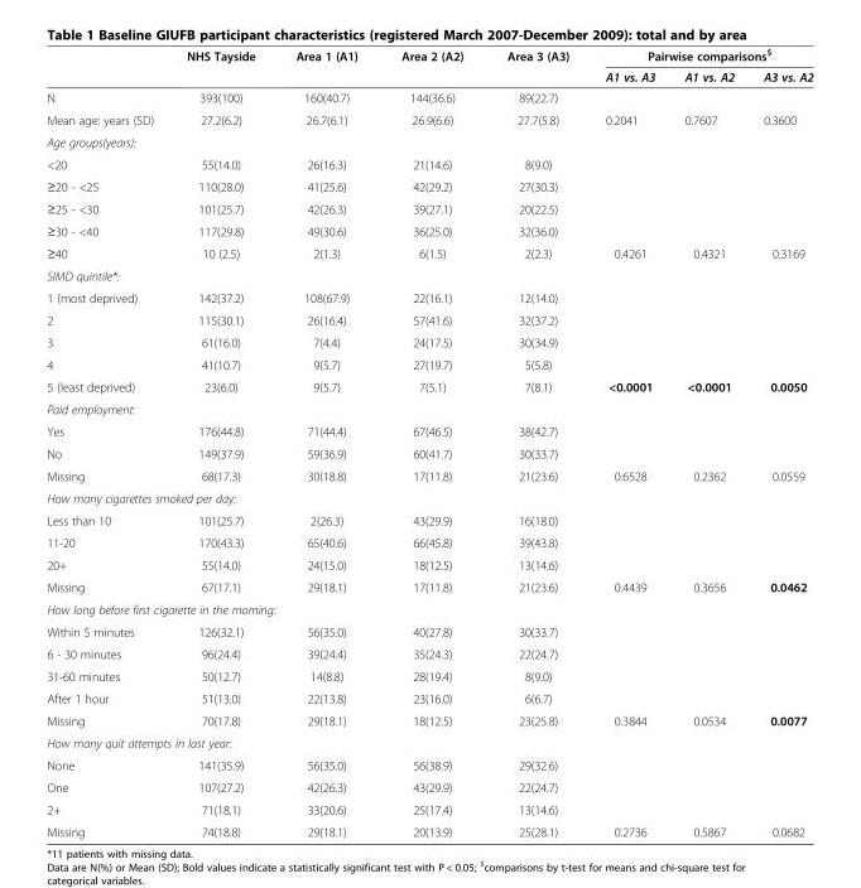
<table><thead><tr><td rowspan="2"></td><td rowspan="2">NHS Tayside</td><td rowspan="2">Area 1 (A1)</td><td rowspan="2">Area 2 (A2)</td><td rowspan="2">Area 3 (A3)</td><td colspan="3">Pairwise comparisons<sup>$</sup></td></tr><tr><td>A1 vs. A3</td><td>A1 vs. A2</td><td>A3 vs. A2</td></tr></thead><tbody><tr><td>N</td><td>393(100)</td><td>160(40.7)</td><td>144(36.6)</td><td>89(22.7)</td><td rowspan="2">0.2041</td><td rowspan="2">0.7607</td><td rowspan="2">0.3600</td></tr><tr><td>Mean age: years (SD)</td><td>27.2(6.2)</td><td>26.7(6.1)</td><td>26.9(6.6)</td><td>27.7(5.8)</td></tr><tr><td colspan="8">Age groups(years):</td></tr><tr><td>&lt;20</td><td>55(14.0)</td><td>26(16.3)</td><td>21(14.6)</td><td>8(9.0)</td><td></td><td></td><td></td></tr><tr><td>≥20 - &lt;25</td><td>110(28.0)</td><td>41(25.6)</td><td>42(29.2)</td><td>27(30.3)</td><td></td><td></td><td></td></tr><tr><td>≥25 - &lt;30</td><td>101(25.7)</td><td>42(26.3)</td><td>39(27.1)</td><td>20(22.5)</td><td></td><td></td><td></td></tr><tr><td>≥30 - &lt;40</td><td>117(29.8)</td><td>49(30.6)</td><td>36(25.0)</td><td>32(36.0)</td><td></td><td></td><td></td></tr><tr><td>≥40</td><td>10 (2.5)</td><td>2(1.3)</td><td>6(1.5)</td><td>2(2.3)</td><td>0.4261</td><td>0.4321</td><td>0.3169</td></tr><tr><td colspan="8">SIMD quintile*:</td></tr><tr><td>1 (most deprived)</td><td>142(37.2)</td><td>108(67.9)</td><td>22(16.1)</td><td>12(14.0)</td><td></td><td></td><td></td></tr><tr><td>2</td><td>115(30.1)</td><td>26(16.4)</td><td>57(41.6)</td><td>32(37.2)</td><td></td><td></td><td></td></tr><tr><td>3</td><td>61(16.0)</td><td>7(4.4)</td><td>24(17.5)</td><td>30(34.9)</td><td></td><td></td><td></td></tr><tr><td>4</td><td>41(10.7)</td><td>9(5.7)</td><td>27(19.7)</td><td>5(5.8)</td><td></td><td></td><td></td></tr><tr><td>5 (least deprived)</td><td>23(6.0)</td><td>9(5.7)</td><td>7(5.1)</td><td>7(8.1)</td><td>&lt;0.0001</td><td>&lt;0.0001</td><td>0.0050</td></tr><tr><td colspan="8">Paid employment:</td></tr><tr><td>Yes</td><td>176(44.8)</td><td>71(44.4)</td><td>67(46.5)</td><td>38(42.7)</td><td></td><td></td><td></td></tr><tr><td>No</td><td>149(37.9)</td><td>59(36.9)</td><td>60(41.7)</td><td>30(33.7)</td><td></td><td></td><td></td></tr><tr><td>Missing</td><td>68(17.3)</td><td>30(18.8)</td><td>17(11.8)</td><td>21(23.6)</td><td>0.6528</td><td>0.2362</td><td>0.0559</td></tr><tr><td colspan="8">How many cigarettes smoked per day:</td></tr><tr><td>Less than 10</td><td>101(25.7)</td><td>2(26.3)</td><td>43(29.9)</td><td>16(18.0)</td><td></td><td></td><td></td></tr><tr><td>11-20</td><td>170(43.3)</td><td>65(40.6)</td><td>66(45.8)</td><td>39(43.8)</td><td></td><td></td><td></td></tr><tr><td>20+</td><td>55(14.0)</td><td>24(15.0)</td><td>18(12.5)</td><td>13(14.6)</td><td></td><td></td><td></td></tr><tr><td>Missing</td><td>67(17.1)</td><td>29(18.1)</td><td>17(11.8)</td><td>21(23.6)</td><td>0.4439</td><td>0.3656</td><td>0.0462</td></tr><tr><td colspan="8">How long before first cigarette in the morning:</td></tr><tr><td>Within 5 minutes</td><td>126(32.1)</td><td>56(35.0)</td><td>40(27.8)</td><td>30(33.7)</td><td></td><td></td><td></td></tr><tr><td>6 - 30 minutes</td><td>96(24.4)</td><td>39(24.4)</td><td>35(24.3)</td><td>22(24.7)</td><td></td><td></td><td></td></tr><tr><td>31-60 minutes</td><td>50(12.7)</td><td>14(8.8)</td><td>28(19.4)</td><td>8(9.0)</td><td></td><td></td><td></td></tr><tr><td>After 1 hour</td><td>51(13.0)</td><td>22(13.8)</td><td>23(16.0)</td><td>6(6.7)</td><td></td><td></td><td></td></tr><tr><td>Missing</td><td>70(17.8)</td><td>29(18.1)</td><td>18(12.5)</td><td>23(25.8)</td><td>0.3844</td><td>0.0534</td><td>0.0077</td></tr><tr><td colspan="8">How many quit attempts in last year:</td></tr><tr><td>None</td><td>141(35.9)</td><td>56(35.0)</td><td>56(38.9)</td><td>29(32.6)</td><td></td><td></td><td></td></tr><tr><td>One</td><td>107(27.2)</td><td>42(26.3)</td><td>43(29.9)</td><td>22(24.7)</td><td></td><td></td><td></td></tr><tr><td>2+</td><td>71(18.1)</td><td>33(20.6)</td><td>25(17.4)</td><td>13(14.6)</td><td></td><td></td><td></td></tr><tr><td>Missing</td><td>74(18.8)</td><td>29(18.1)</td><td>20(13.9)</td><td>25(28.1)</td><td>0.2736</td><td>0.5867</td><td>0.0682</td></tr></tbody></table>